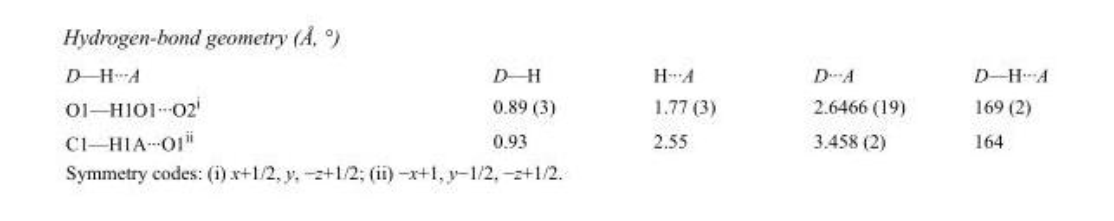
<table><tbody><tr><td>D—H···A</td><td>D—H</td><td>H···A</td><td>D···A</td><td>D—H···A</td></tr><tr><td>O1—H1O1···O2<sup>i</sup></td><td>0.89 (3)</td><td>1.77 (3)</td><td>2.6466 (19)</td><td>169 (2)</td></tr><tr><td>C1—H1A···O1<sup>ii</sup></td><td>0.93</td><td>2.55</td><td>3.458 (2)</td><td>164</td></tr></tbody></table>